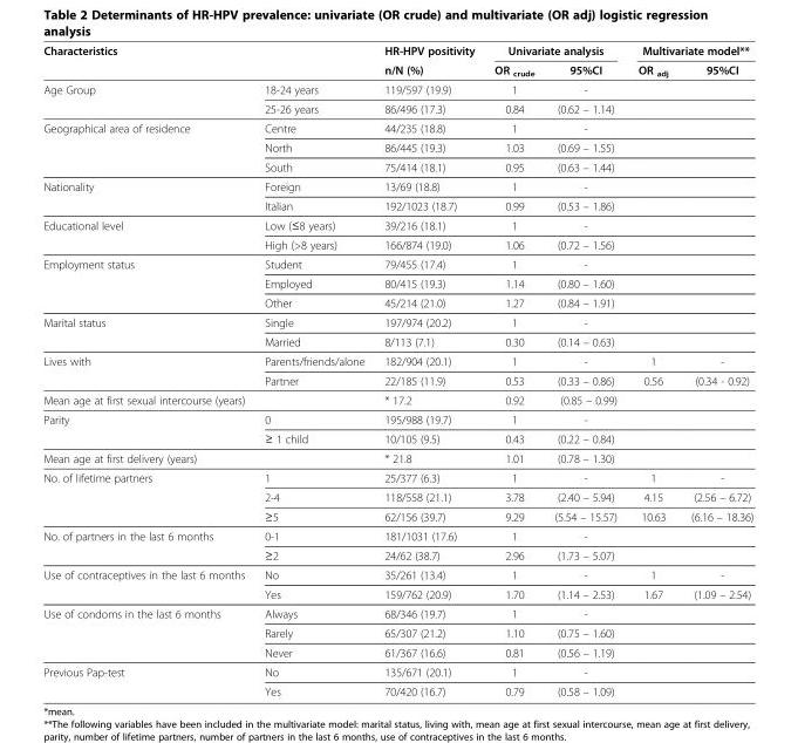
<table><thead><tr><td colspan="2">Characteristics</td><td rowspan="2">HR-HPV positivity n/N (%)</td><td colspan="2">Univariate analysis</td><td colspan="2">Multivariate model**</td></tr><tr><td></td><td></td><td>OR <sub>crude</sub></td><td>95%CI</td><td>OR <sub>adj</sub></td><td>95%CI</td></tr></thead><tbody><tr><td rowspan="2">Age Group</td><td>18-24 years</td><td>119/597 (19.9)</td><td>1</td><td>-</td><td></td><td></td></tr><tr><td>25-26 years</td><td>86/496 (17.3)</td><td>0.84</td><td>(0.62 – 1.14)</td><td></td><td></td></tr><tr><td rowspan="3">Geographical area of residence</td><td>Centre</td><td>44/235 (18.8)</td><td>1</td><td>-</td><td></td><td></td></tr><tr><td>North</td><td>86/445 (19.3)</td><td>1.03</td><td>(0.69 – 1.55)</td><td></td><td></td></tr><tr><td>South</td><td>75/414 (18.1)</td><td>0.95</td><td>(0.63 – 1.44)</td><td></td><td></td></tr><tr><td rowspan="2">Nationality</td><td>Foreign</td><td>13/69 (18.8)</td><td>1</td><td>-</td><td></td><td></td></tr><tr><td>Italian</td><td>192/1023 (18.7)</td><td>0.99</td><td>(0.53 – 1.86)</td><td></td><td></td></tr><tr><td rowspan="2">Educational level</td><td>Low (≤8 years)</td><td>39/216 (18.1)</td><td>1</td><td>-</td><td></td><td></td></tr><tr><td>High (&gt;8 years)</td><td>166/874 (19.0)</td><td>1.06</td><td>(0.72 – 1.56)</td><td></td><td></td></tr><tr><td rowspan="3">Employment status</td><td>Student</td><td>79/455 (17.4)</td><td>1</td><td>-</td><td></td><td></td></tr><tr><td>Employed</td><td>80/415 (19.3)</td><td>1.14</td><td>(0.80 – 1.60)</td><td></td><td></td></tr><tr><td>Other</td><td>45/214 (21.0)</td><td>1.27</td><td>(0.84 – 1.91)</td><td></td><td></td></tr><tr><td rowspan="2">Marital status</td><td>Single</td><td>197/974 (20.2)</td><td>1</td><td>-</td><td></td><td></td></tr><tr><td>Married</td><td>8/113 (7.1)</td><td>0.30</td><td>(0.14 – 0.63)</td><td></td><td></td></tr><tr><td rowspan="2">Lives with</td><td>Parents/friends/alone</td><td>182/904 (20.1)</td><td>1</td><td>-</td><td>1</td><td>-</td></tr><tr><td>Partner</td><td>22/185 (11.9)</td><td>0.53</td><td>(0.33 – 0.86)</td><td>0.56</td><td>(0.34 - 0.92)</td></tr><tr><td>Mean age at first sexual intercourse (years)</td><td></td><td>* 17.2</td><td>0.92</td><td>(0.85 – 0.99)</td><td></td><td></td></tr><tr><td rowspan="2">Parity</td><td>0</td><td>195/988 (19.7)</td><td>1</td><td>-</td><td></td><td></td></tr><tr><td>≥ 1 child</td><td>10/105 (9.5)</td><td>0.43</td><td>(0.22 – 0.84)</td><td></td><td></td></tr><tr><td>Mean age at first delivery (years)</td><td></td><td>* 21.8</td><td>1.01</td><td>(0.78 – 1.30)</td><td></td><td></td></tr><tr><td rowspan="3">No. of lifetime partners</td><td>1</td><td>25/377 (6.3)</td><td>1</td><td>-</td><td>1</td><td>-</td></tr><tr><td>2-4</td><td>118/558 (21.1)</td><td>3.78</td><td>(2.40 – 5.94)</td><td>4.15</td><td>(2.56 – 6.72)</td></tr><tr><td>≥5</td><td>62/156 (39.7)</td><td>9.29</td><td>(5.54 – 15.57)</td><td>10.63</td><td>(6.16 – 18.36)</td></tr><tr><td rowspan="2">No. of partners in the last 6 months</td><td>0-1</td><td>181/1031 (17.6)</td><td>1</td><td>-</td><td></td><td></td></tr><tr><td>≥2</td><td>24/62 (38.7)</td><td>2.96</td><td>(1.73 – 5.07)</td><td></td><td></td></tr><tr><td rowspan="2">Use of contraceptives in the last 6 months</td><td>No</td><td>35/261 (13.4)</td><td>1</td><td>-</td><td>1</td><td>-</td></tr><tr><td>Yes</td><td>159/762 (20.9)</td><td>1.70</td><td>(1.14 – 2.53)</td><td>1.67</td><td>(1.09 – 2.54)</td></tr><tr><td rowspan="3">Use of condoms in the last 6 months</td><td>Always</td><td>68/346 (19.7)</td><td>1</td><td>-</td><td></td><td></td></tr><tr><td>Rarely</td><td>65/307 (21.2)</td><td>1.10</td><td>(0.75 – 1.60)</td><td></td><td></td></tr><tr><td>Never</td><td>61/367 (16.6)</td><td>0.81</td><td>(0.56 – 1.19)</td><td></td><td></td></tr><tr><td rowspan="2">Previous Pap-test</td><td>No</td><td>135/671 (20.1)</td><td>1</td><td>-</td><td></td><td></td></tr><tr><td>Yes</td><td>70/420 (16.7)</td><td>0.79</td><td>(0.58 – 1.09)</td><td></td><td></td></tr></tbody></table>